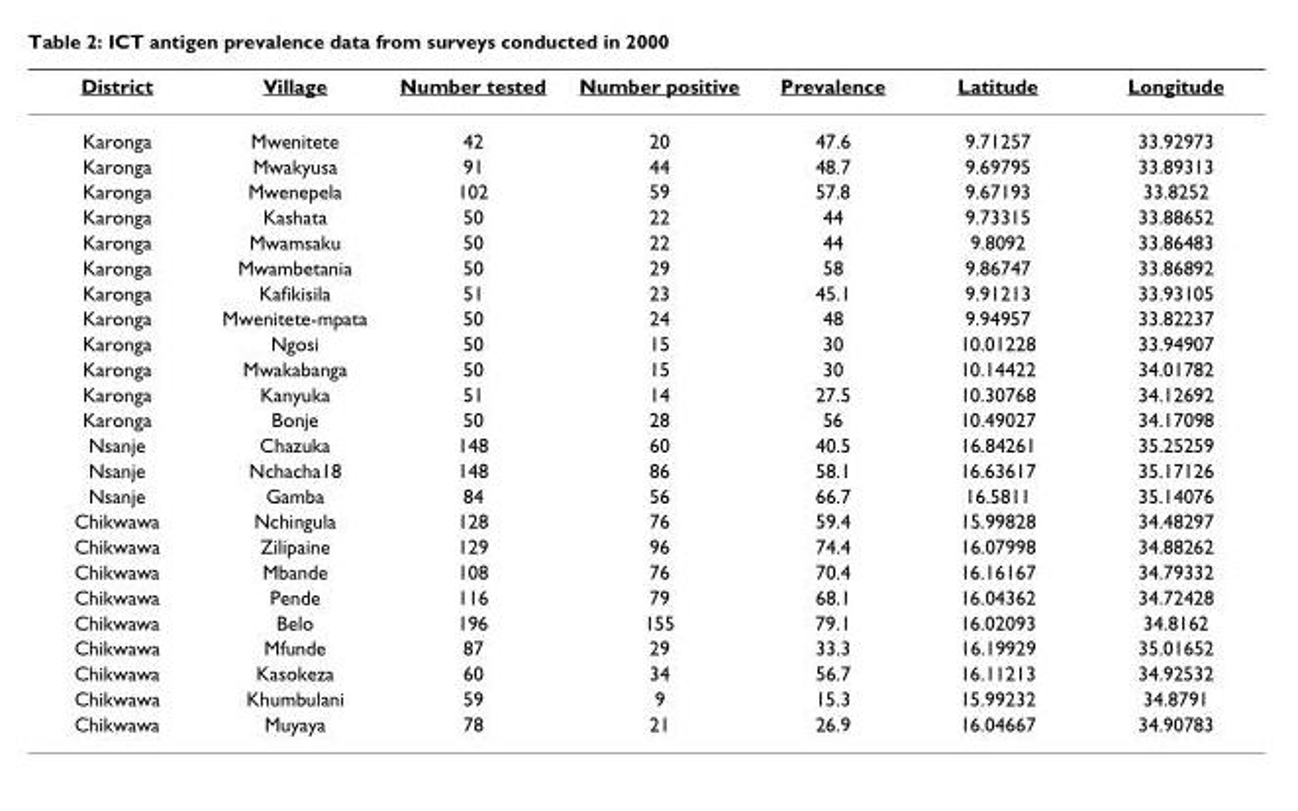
<table><thead><tr><td>District</td><td>Village</td><td>Number tested</td><td>Number positive</td><td>Prevalence</td><td>Latitude</td><td>Longitude</td></tr></thead><tbody><tr><td>Karonga</td><td>Mwenitete</td><td>42</td><td>20</td><td>47.6</td><td>9.71257</td><td>33.92973</td></tr><tr><td>Karonga</td><td>Mwakyusa</td><td>91</td><td>44</td><td>48.7</td><td>9.69795</td><td>33.89313</td></tr><tr><td>Karonga</td><td>Mwenepela</td><td>102</td><td>59</td><td>57.8</td><td>9.67193</td><td>33.8252</td></tr><tr><td>Karonga</td><td>Kashata</td><td>50</td><td>22</td><td>44</td><td>9.73315</td><td>33.88652</td></tr><tr><td>Karonga</td><td>Mwamsaku</td><td>50</td><td>22</td><td>44</td><td>9.8092</td><td>33.86483</td></tr><tr><td>Karonga</td><td>Mwambetania</td><td>50</td><td>29</td><td>58</td><td>9.86747</td><td>33.86892</td></tr><tr><td>Karonga</td><td>Kafikisila</td><td>51</td><td>23</td><td>45.1</td><td>9.91213</td><td>33.93105</td></tr><tr><td>Karonga</td><td>Mwenitete-mpata</td><td>50</td><td>24</td><td>48</td><td>9.94957</td><td>33.82237</td></tr><tr><td>Karonga</td><td>Ngosi</td><td>50</td><td>15</td><td>30</td><td>10.01228</td><td>33.94907</td></tr><tr><td>Karonga</td><td>Mwakabanga</td><td>50</td><td>15</td><td>30</td><td>10.14422</td><td>34.01782</td></tr><tr><td>Karonga</td><td>Kanyuka</td><td>51</td><td>14</td><td>27.5</td><td>10.30768</td><td>34.12692</td></tr><tr><td>Karonga</td><td>Bonje</td><td>50</td><td>28</td><td>56</td><td>10.49027</td><td>34.17098</td></tr><tr><td>Nsanje</td><td>Chazuka</td><td>148</td><td>60</td><td>40.5</td><td>16.84261</td><td>35.25259</td></tr><tr><td>Nsanje</td><td>Nchacha18</td><td>148</td><td>86</td><td>58.1</td><td>16.63617</td><td>35.17126</td></tr><tr><td>Nsanje</td><td>Gamba</td><td>84</td><td>56</td><td>66.7</td><td>16.5811</td><td>35.14076</td></tr><tr><td>Chikwawa</td><td>Nchingula</td><td>128</td><td>76</td><td>59.4</td><td>15.99828</td><td>34.48297</td></tr><tr><td>Chikwawa</td><td>Zilipaine</td><td>129</td><td>96</td><td>74.4</td><td>16.07998</td><td>34.88262</td></tr><tr><td>Chikwawa</td><td>Mbande</td><td>108</td><td>76</td><td>70.4</td><td>16.16167</td><td>34.79332</td></tr><tr><td>Chikwawa</td><td>Pende</td><td>116</td><td>79</td><td>68.1</td><td>16.04362</td><td>34.72428</td></tr><tr><td>Chikwawa</td><td>Belo</td><td>196</td><td>155</td><td>79.1</td><td>16.02093</td><td>34.8162</td></tr><tr><td>Chikwawa</td><td>Mfunde</td><td>87</td><td>29</td><td>33.3</td><td>16.19929</td><td>35.01652</td></tr><tr><td>Chikwawa</td><td>Kasokeza</td><td>60</td><td>34</td><td>56.7</td><td>16.11213</td><td>34.92532</td></tr><tr><td>Chikwawa</td><td>Khumbulani</td><td>59</td><td>9</td><td>15.3</td><td>15.99232</td><td>34.8791</td></tr><tr><td>Chikwawa</td><td>Muyaya</td><td>78</td><td>21</td><td>26.9</td><td>16.04667</td><td>34.90783</td></tr></tbody></table>